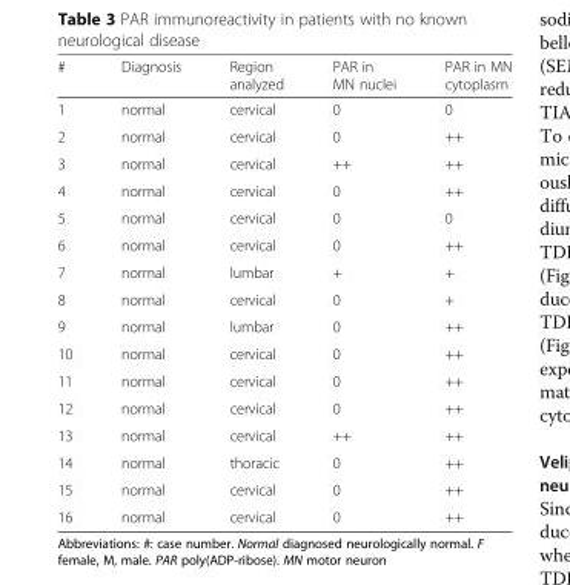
<table><thead><tr><td>#</td><td>Diagnosis</td><td>Region analyzed</td><td>PAR in MN nuclei</td><td>PAR in MN cytoplasm</td></tr></thead><tbody><tr><td>1</td><td>normal</td><td>cervical</td><td>0</td><td>0</td></tr><tr><td>2</td><td>normal</td><td>cervical</td><td>0</td><td>++</td></tr><tr><td>3</td><td>normal</td><td>cervical</td><td>++</td><td>++</td></tr><tr><td>4</td><td>normal</td><td>cervical</td><td>0</td><td>++</td></tr><tr><td>5</td><td>normal</td><td>cervical</td><td>0</td><td>0</td></tr><tr><td>6</td><td>normal</td><td>cervical</td><td>0</td><td>++</td></tr><tr><td>7</td><td>normal</td><td>lumbar</td><td>+</td><td>+</td></tr><tr><td>8</td><td>normal</td><td>cervical</td><td>0</td><td>+</td></tr><tr><td>9</td><td>normal</td><td>lumbar</td><td>0</td><td>++</td></tr><tr><td>10</td><td>normal</td><td>cervical</td><td>0</td><td>++</td></tr><tr><td>11</td><td>normal</td><td>cervical</td><td>0</td><td>++</td></tr><tr><td>12</td><td>normal</td><td>cervical</td><td>0</td><td>++</td></tr><tr><td>13</td><td>normal</td><td>cervical</td><td>++</td><td>++</td></tr><tr><td>14</td><td>normal</td><td>thoracic</td><td>0</td><td>++</td></tr><tr><td>15</td><td>normal</td><td>cervical</td><td>0</td><td>++</td></tr><tr><td>16</td><td>normal</td><td>cervical</td><td>0</td><td>++</td></tr></tbody></table>